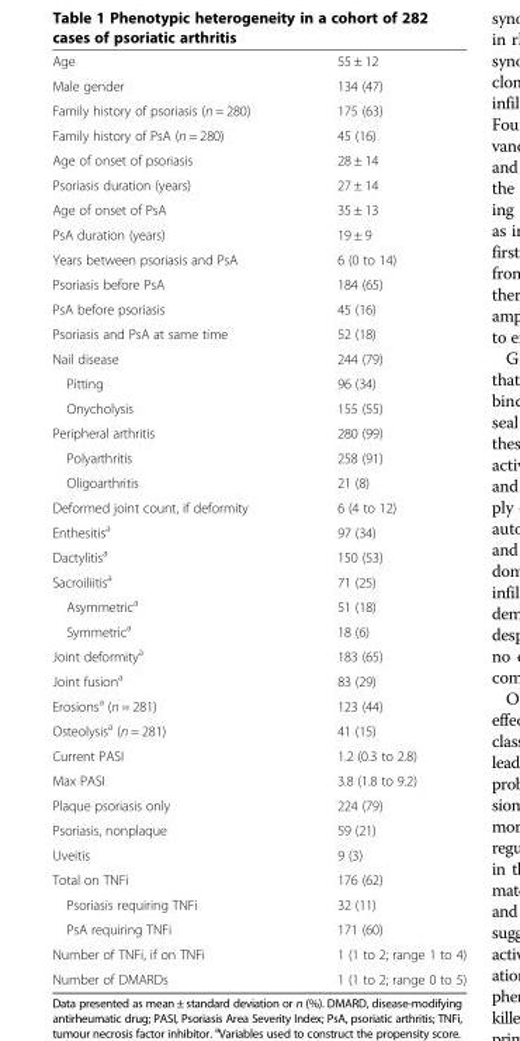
<table><tbody><tr><td>Age</td><td>55 ± 12</td></tr><tr><td>Male gender</td><td>134 (47)</td></tr><tr><td>Family history of psoriasis (n = 280)</td><td>175 (63)</td></tr><tr><td>Family history of PsA (n = 280)</td><td>45 (16)</td></tr><tr><td>Age of onset of psoriasis</td><td>28 ± 14</td></tr><tr><td>Psoriasis duration (years)</td><td>27 ± 14</td></tr><tr><td>Age of onset of PsA</td><td>35 ± 13</td></tr><tr><td>PsA duration (years)</td><td>19 ± 9</td></tr><tr><td>Years between psoriasis and PsA</td><td>6 (0 to 14)</td></tr><tr><td>Psoriasis before PsA</td><td>184 (65)</td></tr><tr><td>PsA before psoriasis</td><td>45 (16)</td></tr><tr><td>Psoriasis and PsA at same time</td><td>52 (18)</td></tr><tr><td>Nail disease</td><td>244 (79)</td></tr><tr><td>Pitting</td><td>96 (34)</td></tr><tr><td>Onycholysis</td><td>155 (55)</td></tr><tr><td>Peripheral arthritis</td><td>280 (99)</td></tr><tr><td>Polyarthritis</td><td>258 (91)</td></tr><tr><td>Oligoarthritis</td><td>21 (8)</td></tr><tr><td>Deformed joint count, if deformity</td><td>6 (4 to 12)</td></tr><tr><td>Enthesitis<sup>a</sup></td><td>97 (34)</td></tr><tr><td>Dactylitis<sup>a</sup></td><td>150 (53)</td></tr><tr><td>Sacroiliitis<sup>a</sup></td><td>71 (25)</td></tr><tr><td>Asymmetric<sup>a</sup></td><td>51 (18)</td></tr><tr><td>Symmetric<sup>a</sup></td><td>18 (6)</td></tr><tr><td>Joint deformity<sup>a</sup></td><td>183 (65)</td></tr><tr><td>Joint fusion<sup>a</sup></td><td>83 (29)</td></tr><tr><td>Erosions<sup>a</sup> (n = 281)</td><td>123 (44)</td></tr><tr><td>Osteolysis<sup>a</sup> (n = 281)</td><td>41 (15)</td></tr><tr><td>Current PASI</td><td>1.2 (0.3 to 2.8)</td></tr><tr><td>Max PASI</td><td>3.8 (1.8 to 9.2)</td></tr><tr><td>Plaque psoriasis only</td><td>224 (79)</td></tr><tr><td>Psoriasis, nonplaque</td><td>59 (21)</td></tr><tr><td>Uveitis</td><td>9 (3)</td></tr><tr><td>Total on TNFi</td><td>176 (62)</td></tr><tr><td>Psoriasis requiring TNFi</td><td>32 (11)</td></tr><tr><td>PsA requiring TNFi</td><td>171 (60)</td></tr><tr><td>Number of TNFi, if on TNFi</td><td>1 (1 to 2; range 1 to 4)</td></tr><tr><td>Number of DMARDs</td><td>1 (1 to 2; range 0 to 5)</td></tr></tbody></table>